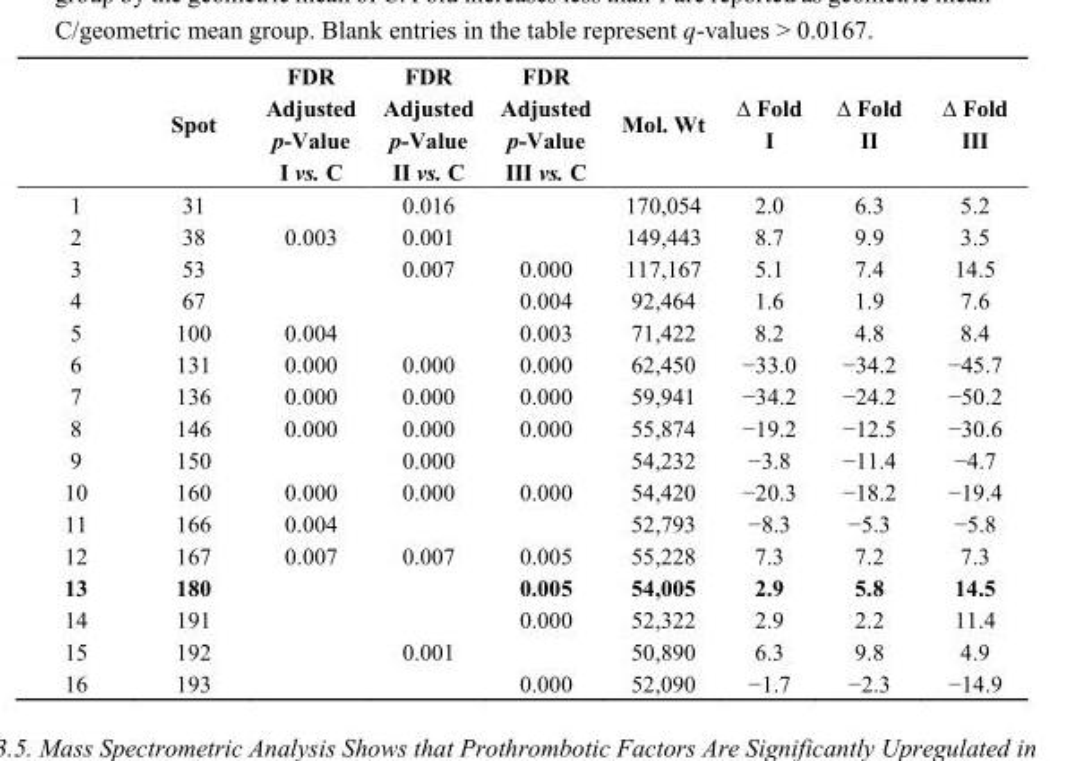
<table><thead><tr><td></td><td>Spot</td><td>FDR Adjusted p-Value I vs. C</td><td>FDR Adjusted p-Value II vs. C</td><td>FDR Adjusted p-Value III vs. C</td><td>Mol. Wt</td><td>∆ Fold I</td><td>∆ Fold II</td><td>∆ Fold III</td></tr></thead><tbody><tr><td>1</td><td>31</td><td></td><td>0.016</td><td></td><td>170,054</td><td>2.0</td><td>6.3</td><td>5.2</td></tr><tr><td>2</td><td>38</td><td>0.003</td><td>0.001</td><td></td><td>149,443</td><td>8.7</td><td>9.9</td><td>3.5</td></tr><tr><td>3</td><td>53</td><td></td><td>0.007</td><td>0.000</td><td>117,167</td><td>5.1</td><td>7.4</td><td>14.5</td></tr><tr><td>4</td><td>67</td><td></td><td></td><td>0.004</td><td>92,464</td><td>1.6</td><td>1.9</td><td>7.6</td></tr><tr><td>5</td><td>100</td><td>0.004</td><td></td><td>0.003</td><td>71,422</td><td>8.2</td><td>4.8</td><td>8.4</td></tr><tr><td>6</td><td>131</td><td>0.000</td><td>0.000</td><td>0.000</td><td>62,450</td><td>−33.0</td><td>−34.2</td><td>−45.7</td></tr><tr><td>7</td><td>136</td><td>0.000</td><td>0.000</td><td>0.000</td><td>59,941</td><td>−34.2</td><td>−24.2</td><td>−50.2</td></tr><tr><td>8</td><td>146</td><td>0.000</td><td>0.000</td><td>0.000</td><td>55,874</td><td>−19.2</td><td>−12.5</td><td>−30.6</td></tr><tr><td>9</td><td>150</td><td></td><td>0.000</td><td></td><td>54,232</td><td>−3.8</td><td>−11.4</td><td>−4.7</td></tr><tr><td>10</td><td>160</td><td>0.000</td><td>0.000</td><td>0.000</td><td>54,420</td><td>−20.3</td><td>−18.2</td><td>−19.4</td></tr><tr><td>11</td><td>166</td><td>0.004</td><td></td><td></td><td>52,793</td><td>−8.3</td><td>−5.3</td><td>−5.8</td></tr><tr><td>12</td><td>167</td><td>0.007</td><td>0.007</td><td>0.005</td><td>55,228</td><td>7.3</td><td>7.2</td><td>7.3</td></tr><tr><td>13</td><td>180</td><td></td><td></td><td>0.005</td><td>54,005</td><td>2.9</td><td>5.8</td><td>14.5</td></tr><tr><td>14</td><td>191</td><td></td><td></td><td>0.000</td><td>52,322</td><td>2.9</td><td>2.2</td><td>11.4</td></tr><tr><td>15</td><td>192</td><td></td><td>0.001</td><td></td><td>50,890</td><td>6.3</td><td>9.8</td><td>4.9</td></tr><tr><td>16</td><td>193</td><td></td><td></td><td>0.000</td><td>52,090</td><td>−1.7</td><td>−2.3</td><td>−14.9</td></tr></tbody></table>